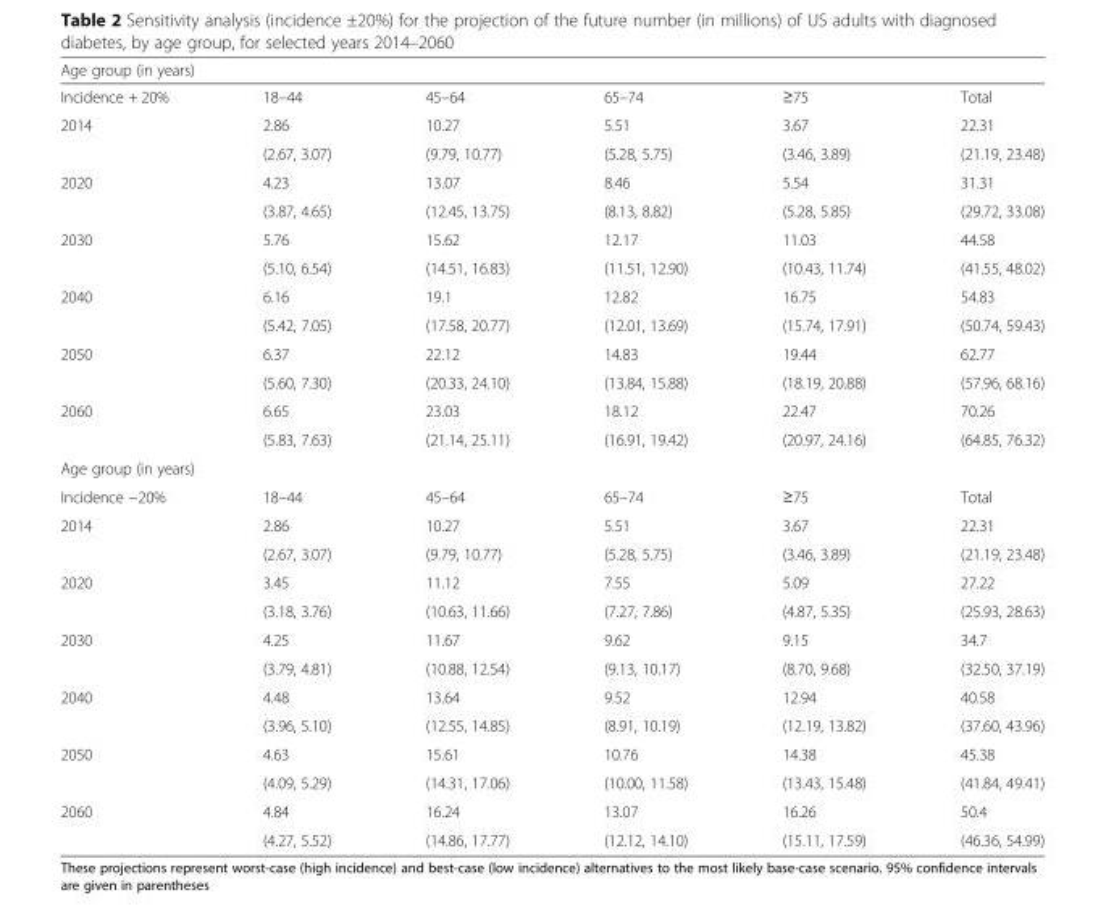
<table><thead><tr><td colspan="6">Age group (in years)</td></tr><tr><td>Incidence + 20%</td><td>18–44</td><td>45–64</td><td>65–74</td><td>≥75</td><td>Total</td></tr></thead><tbody><tr><td rowspan="2">2014</td><td>2.86</td><td>10.27</td><td>5.51</td><td>3.67</td><td>22.31</td></tr><tr><td>(2.67, 3.07)</td><td>(9.79, 10.77)</td><td>(5.28, 5.75)</td><td>(3.46, 3.89)</td><td>(21.19, 23.48)</td></tr><tr><td rowspan="2">2020</td><td>4.23</td><td>13.07</td><td>8.46</td><td>5.54</td><td>31.31</td></tr><tr><td>(3.87, 4.65)</td><td>(12.45, 13.75)</td><td>(8.13, 8.82)</td><td>(5.28, 5.85)</td><td>(29.72, 33.08)</td></tr><tr><td rowspan="2">2030</td><td>5.76</td><td>15.62</td><td>12.17</td><td>11.03</td><td>44.58</td></tr><tr><td>(5.10, 6.54)</td><td>(14.51, 16.83)</td><td>(11.51, 12.90)</td><td>(10.43, 11.74)</td><td>(41.55, 48.02)</td></tr><tr><td rowspan="2">2040</td><td>6.16</td><td>19.1</td><td>12.82</td><td>16.75</td><td>54.83</td></tr><tr><td>(5.42, 7.05)</td><td>(17.58, 20.77)</td><td>(12.01, 13.69)</td><td>(15.74, 17.91)</td><td>(50.74, 59.43)</td></tr><tr><td rowspan="2">2050</td><td>6.37</td><td>22.12</td><td>14.83</td><td>19.44</td><td>62.77</td></tr><tr><td>(5.60, 7.30)</td><td>(20.33, 24.10)</td><td>(13.84, 15.88)</td><td>(18.19, 20.88)</td><td>(57.96, 68.16)</td></tr><tr><td rowspan="2">2060</td><td>6.65</td><td>23.03</td><td>18.12</td><td>22.47</td><td>70.26</td></tr><tr><td>(5.83, 7.63)</td><td>(21.14, 25.11)</td><td>(16.91, 19.42)</td><td>(20.97, 24.16)</td><td>(64.85, 76.32)</td></tr><tr><td colspan="6">Age group (in years)</td></tr><tr><td>Incidence −20%</td><td>18–44</td><td>45–64</td><td>65–74</td><td>≥75</td><td>Total</td></tr><tr><td rowspan="2">2014</td><td>2.86</td><td>10.27</td><td>5.51</td><td>3.67</td><td>22.31</td></tr><tr><td>(2.67, 3.07)</td><td>(9.79, 10.77)</td><td>(5.28, 5.75)</td><td>(3.46, 3.89)</td><td>(21.19, 23.48)</td></tr><tr><td rowspan="2">2020</td><td>3.45</td><td>11.12</td><td>7.55</td><td>5.09</td><td>27.22</td></tr><tr><td>(3.18, 3.76)</td><td>(10.63, 11.66)</td><td>(7.27, 7.86)</td><td>(4.87, 5.35)</td><td>(25.93, 28.63)</td></tr><tr><td rowspan="2">2030</td><td>4.25</td><td>11.67</td><td>9.62</td><td>9.15</td><td>34.7</td></tr><tr><td>(3.79, 4.81)</td><td>(10.88, 12.54)</td><td>(9.13, 10.17)</td><td>(8.70, 9.68)</td><td>(32.50, 37.19)</td></tr><tr><td rowspan="2">2040</td><td>4.48</td><td>13.64</td><td>9.52</td><td>12.94</td><td>40.58</td></tr><tr><td>(3.96, 5.10)</td><td>(12.55, 14.85)</td><td>(8.91, 10.19)</td><td>(12.19, 13.82)</td><td>(37.60, 43.96)</td></tr><tr><td rowspan="2">2050</td><td>4.63</td><td>15.61</td><td>10.76</td><td>14.38</td><td>45.38</td></tr><tr><td>(4.09, 5.29)</td><td>(14.31, 17.06)</td><td>(10.00, 11.58)</td><td>(13.43, 15.48)</td><td>(41.84, 49.41)</td></tr><tr><td rowspan="2">2060</td><td>4.84</td><td>16.24</td><td>13.07</td><td>16.26</td><td>50.4</td></tr><tr><td>(4.27, 5.52)</td><td>(14.86, 17.77)</td><td>(12.12, 14.10)</td><td>(15.11, 17.59)</td><td>(46.36, 54.99)</td></tr></tbody></table>